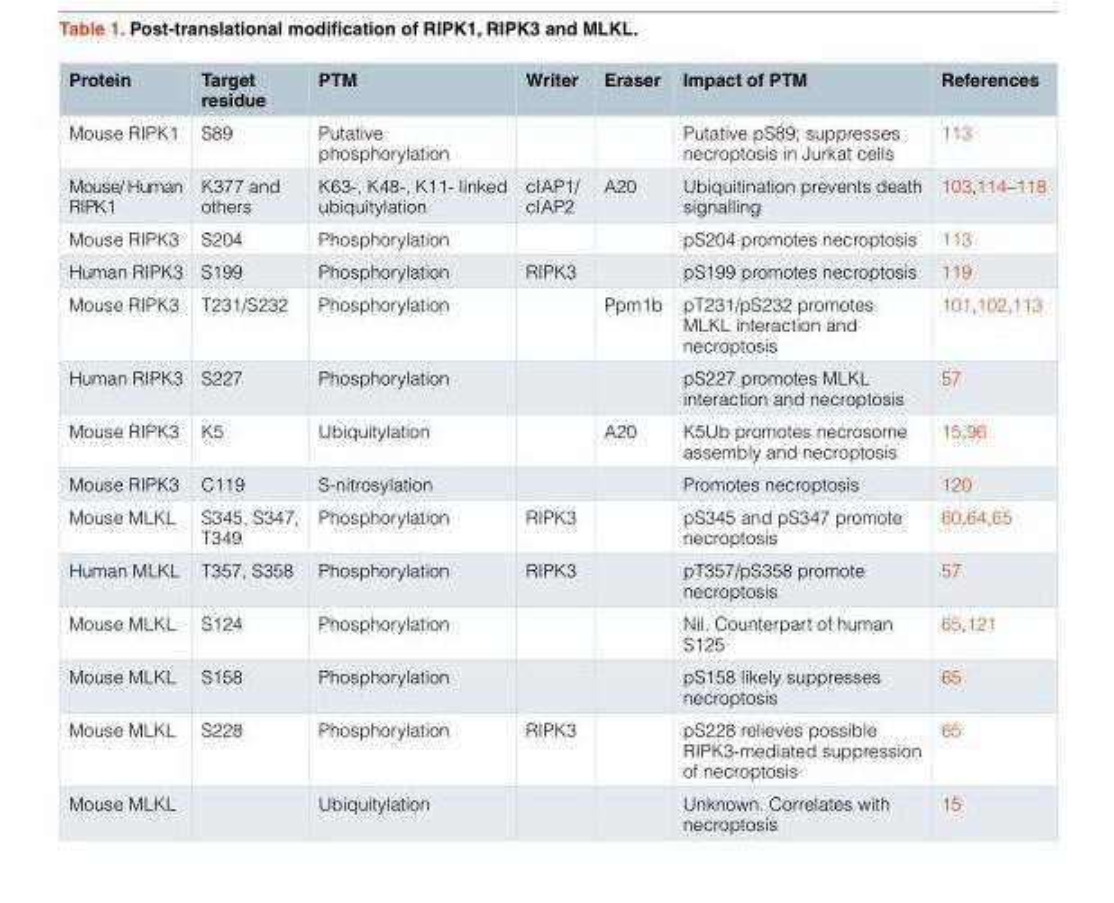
<table><thead><tr><td>Protein</td><td>Target residue</td><td>PTM</td><td>Writer</td><td>Eraser</td><td>Impact of PTM</td><td>References</td></tr></thead><tbody><tr><td>Mouse RIPK1</td><td>S89</td><td>Putative phosphorylation</td><td></td><td></td><td>Putative pS89; suppresses necroptosis in Jurkat cells</td><td>113</td></tr><tr><td>Mouse/ Human RIPK1</td><td>K377 and others</td><td>K63-, K48-, K11- linked ubiquitylation</td><td>cIAP1/ cIAP2</td><td>A20</td><td>Ubiquitination prevents death signalling</td><td>103,114–118</td></tr><tr><td>Mouse RIPK3</td><td>S204</td><td>Phosphorylation</td><td></td><td></td><td>pS204 promotes necroptosis</td><td>113</td></tr><tr><td>Human RIPK3</td><td>S199</td><td>Phosphorylation</td><td>RIPK3</td><td></td><td>pS199 promotes necroptosis</td><td>119</td></tr><tr><td>Mouse RIPK3</td><td>T231/S232</td><td>Phosphorylation</td><td></td><td>Ppm1b</td><td>pT231/pS232 promotes MLKL interaction and necroptosis</td><td>101,102,113</td></tr><tr><td>Human RIPK3</td><td>S227</td><td>Phosphorylation</td><td></td><td></td><td>pS227 promotes MLKL interaction and necroptosis</td><td>57</td></tr><tr><td>Mouse RIPK3</td><td>K5</td><td>Ubiquitylation</td><td></td><td>A20</td><td>K5Ub promotes necrosome assembly and necroptosis</td><td>15,96</td></tr><tr><td>Mouse RIPK3</td><td>C119</td><td>S-nitrosylation</td><td></td><td></td><td>Promotes necroptosis</td><td>120</td></tr><tr><td>Mouse MLKL</td><td>S345, S347, T349</td><td>Phosphorylation</td><td>RIPK3</td><td></td><td>pS345 and pS347 promote necroptosis</td><td>60,64,65</td></tr><tr><td>Human MLKL</td><td>T357, S358</td><td>Phosphorylation</td><td>RIPK3</td><td></td><td>pT357/pS358 promote necroptosis</td><td>57</td></tr><tr><td>Mouse MLKL</td><td>S124</td><td>Phosphorylation</td><td></td><td></td><td>Nil. Counterpart of human S125</td><td>65,121</td></tr><tr><td>Mouse MLKL</td><td>S158</td><td>Phosphorylation</td><td></td><td></td><td>pS158 likely suppresses necroptosis</td><td>65</td></tr><tr><td>Mouse MLKL</td><td>S228</td><td>Phosphorylation</td><td>RIPK3</td><td></td><td>pS228 relieves possible RIPK3-mediated suppression of necroptosis</td><td>65</td></tr><tr><td>Mouse MLKL</td><td></td><td>Ubiquitylation</td><td></td><td></td><td>Unknown. Correlates with necroptosis</td><td>15</td></tr></tbody></table>